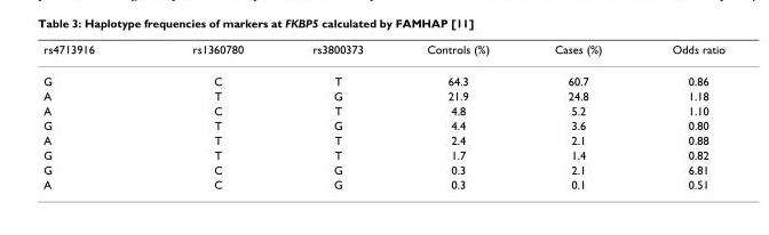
<table><thead><tr><td>rs4713916</td><td>rs1360780</td><td>rs3800373</td><td>Controls (%)</td><td>Cases (%)</td><td>Odds ratio</td></tr></thead><tbody><tr><td>G</td><td>C</td><td>T</td><td>64.3</td><td>60.7</td><td>0.86</td></tr><tr><td>A</td><td>T</td><td>G</td><td>21.9</td><td>24.8</td><td>1.18</td></tr><tr><td>A</td><td>C</td><td>T</td><td>4.8</td><td>5.2</td><td>1.10</td></tr><tr><td>G</td><td>T</td><td>G</td><td>4.4</td><td>3.6</td><td>0.80</td></tr><tr><td>A</td><td>T</td><td>T</td><td>2.4</td><td>2.1</td><td>0.88</td></tr><tr><td>G</td><td>T</td><td>T</td><td>1.7</td><td>1.4</td><td>0.82</td></tr><tr><td>G</td><td>C</td><td>G</td><td>0.3</td><td>2.1</td><td>6.81</td></tr><tr><td>A</td><td>C</td><td>G</td><td>0.3</td><td>0.1</td><td>0.51</td></tr></tbody></table>